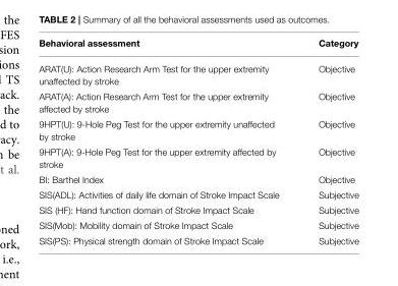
<table><thead><tr><td>Behavioral assessment</td><td>Category</td></tr></thead><tbody><tr><td>ARAT(U): Action Research Arm Test for the upper extremity unaffected by stroke</td><td>Objective</td></tr><tr><td>ARAT(A): Action Research Arm Test for the upper extremity affected by stroke</td><td>Objective</td></tr><tr><td>9HPT(U): 9-Hole Peg Test for the upper extremity unaffected by stroke</td><td>Objective</td></tr><tr><td>9HPT(A): 9-Hole Peg Test for the upper extremity affected by stroke</td><td>Objective</td></tr><tr><td>BI: Barthel Index</td><td>Objective</td></tr><tr><td>SIS(ADL): Activities of daily life domain of Stroke Impact Scale</td><td>Subjective</td></tr><tr><td>SIS (HF): Hand function domain of Stroke Impact Scale</td><td>Subjective</td></tr><tr><td>SIS(Mob): Mobility domain of Stroke Impact Scale</td><td>Subjective</td></tr><tr><td>SIS(PS): Physical strength domain of Stroke Impact Scale</td><td>Subjective</td></tr></tbody></table>